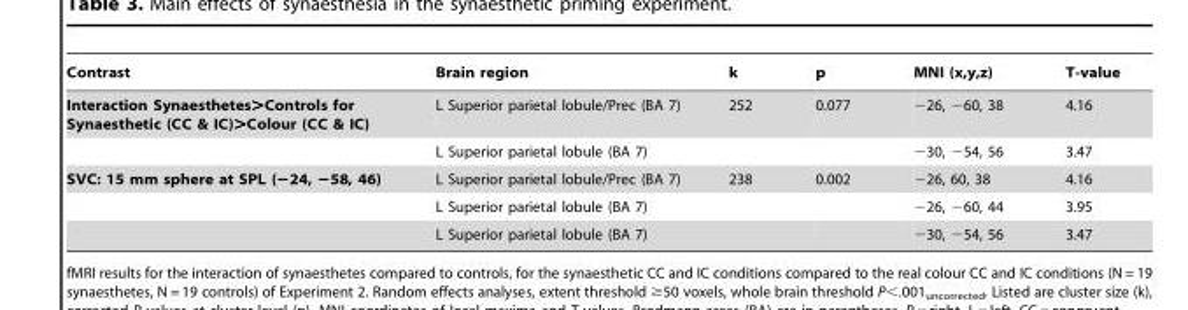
<table><thead><tr><td>Contrast</td><td>Brain region</td><td>k</td><td>p</td><td>MNI (x,y,z)</td><td>T-value</td></tr></thead><tbody><tr><td rowspan="2">Interaction Synaesthetes&gt;Controls for Synaesthetic (CC &amp; IC)&gt;Colour (CC &amp; IC)</td><td>L Superior parietal lobule/Prec (BA 7)</td><td>252</td><td>0.077</td><td>−26, −60, 38</td><td>4.16</td></tr><tr><td>L Superior parietal lobule (BA 7)</td><td></td><td></td><td>−30, −54, 56</td><td>3.47</td></tr><tr><td rowspan="3">SVC: 15 mm sphere at SPL (−24, −58, 46)</td><td>L Superior parietal lobule/Prec (BA 7)</td><td>238</td><td>0.002</td><td>−26, 60, 38</td><td>4.16</td></tr><tr><td>L Superior parietal lobule (BA 7)</td><td></td><td></td><td>−26, −60, 44</td><td>3.95</td></tr><tr><td>L Superior parietal lobule (BA 7)</td><td></td><td></td><td>−30, −54, 56</td><td>3.47</td></tr></tbody></table>